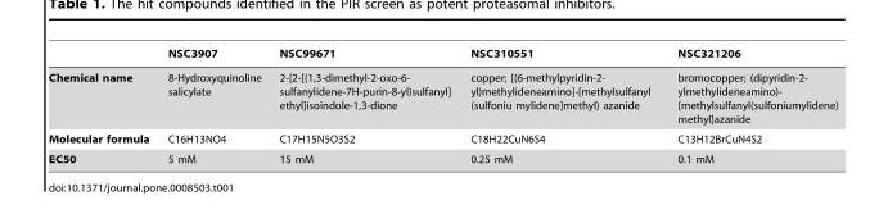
<table><thead><tr><td></td><td>NSC3907</td><td>NSC99671</td><td>NSC310551</td><td>NSC321206</td></tr></thead><tbody><tr><td>Chemical name</td><td>8-Hydroxyquinoline salicylate</td><td>2-[2-[(1,3-dimethyl-2-oxo-6- sulfanylidene-7H-purin-8-yl)sulfanyl] ethyl]isoindole-1,3-dione</td><td>copper; [(6-methylpyridin-2- yl)methylideneamino]-[methylsulfanyl (sulfoniu mylidene]methyl) azanide</td><td>bromocopper; (dipyridin-2- ylmethylideneamino)- [methylsulfanyl(sulfoniumylidene) methyl]azanide</td></tr><tr><td>Molecular formula</td><td>C16H13NO4</td><td>C17H15N5O3S2</td><td>C18H22CuN6S4</td><td>C13H12BrCuN4S2</td></tr><tr><td>EC50</td><td>5 mM</td><td>15 mM</td><td>0.25 mM</td><td>0.1 mM</td></tr></tbody></table>